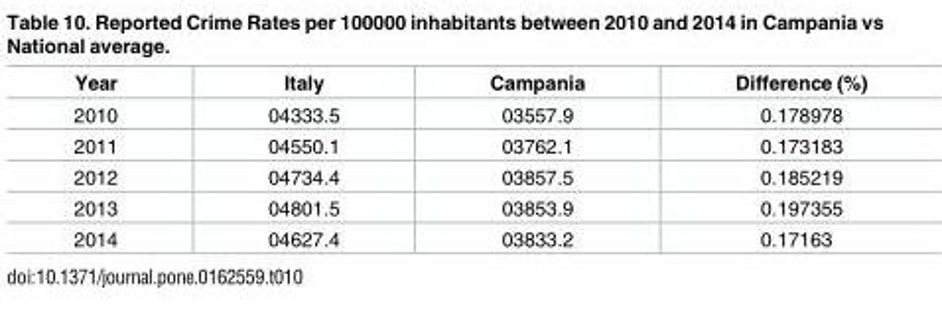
<table><thead><tr><td>Year</td><td>Italy</td><td>Campania</td><td>Difference (%)</td></tr></thead><tbody><tr><td>2010</td><td>04333.5</td><td>03557.9</td><td>0.178978</td></tr><tr><td>2011</td><td>04550.1</td><td>03762.1</td><td>0.173183</td></tr><tr><td>2012</td><td>04734.4</td><td>03857.5</td><td>0.185219</td></tr><tr><td>2013</td><td>04801.5</td><td>03853.9</td><td>0.197355</td></tr><tr><td>2014</td><td>04627.4</td><td>03833.2</td><td>0.17163</td></tr></tbody></table>